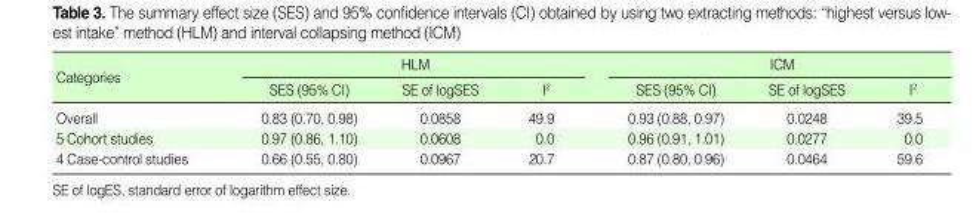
<table><thead><tr><td rowspan="2">Categories</td><td colspan="3">HLM</td><td colspan="3">ICM</td></tr><tr><td>SES (95% CI)</td><td>SE of logSES</td><td>I2</td><td>SES (95% CI)</td><td>SE of logSES</td><td>I2</td></tr></thead><tbody><tr><td>Overall</td><td>0.83 (0.70, 0.98)</td><td>0.0858</td><td>49.9</td><td>0.93 (0.88, 0.97)</td><td>0.0248</td><td>39.5</td></tr><tr><td>5 Cohort studies</td><td>0.97 (0.86, 1.10)</td><td>0.0608</td><td>0.0</td><td>0.96 (0.91, 1.01)</td><td>0.0277</td><td>0.0</td></tr><tr><td>4 Case-control studies</td><td>0.66 (0.55, 0.80)</td><td>0.0967</td><td>20.7</td><td>0.87 (0.80, 0.96)</td><td>0.0464</td><td>59.6</td></tr></tbody></table>